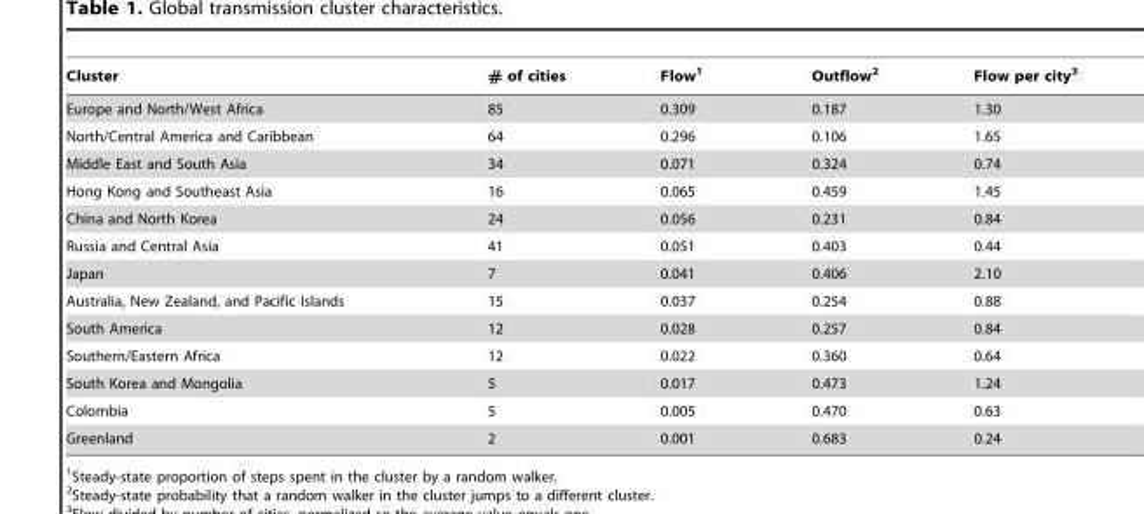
<table><thead><tr><td>Cluster</td><td># of cities</td><td>Flow<sup>1</sup></td><td>Outflow<sup>2</sup></td><td>Flow per city<sup>3</sup></td></tr></thead><tbody><tr><td>Europe and North/West Africa</td><td>85</td><td>0.309</td><td>0.187</td><td>1.30</td></tr><tr><td>North/Central America and Caribbean</td><td>64</td><td>0.296</td><td>0.106</td><td>1.65</td></tr><tr><td>Middle East and South Asia</td><td>34</td><td>0.071</td><td>0.324</td><td>0.74</td></tr><tr><td>Hong Kong and Southeast Asia</td><td>16</td><td>0.065</td><td>0.459</td><td>1.45</td></tr><tr><td>China and North Korea</td><td>24</td><td>0.056</td><td>0.231</td><td>0.84</td></tr><tr><td>Russia and Central Asia</td><td>41</td><td>0.051</td><td>0.403</td><td>0.44</td></tr><tr><td>Japan</td><td>7</td><td>0.041</td><td>0.406</td><td>2.10</td></tr><tr><td>Australia, New Zealand, and Pacific Islands</td><td>15</td><td>0.037</td><td>0.254</td><td>0.88</td></tr><tr><td>South America</td><td>12</td><td>0.028</td><td>0.257</td><td>0.84</td></tr><tr><td>Southern/Eastern Africa</td><td>12</td><td>0.022</td><td>0.360</td><td>0.64</td></tr><tr><td>South Korea and Mongolia</td><td>5</td><td>0.017</td><td>0.473</td><td>1.24</td></tr><tr><td>Colombia</td><td>5</td><td>0.005</td><td>0.470</td><td>0.63</td></tr><tr><td>Greenland</td><td>2</td><td>0.001</td><td>0.683</td><td>0.24</td></tr></tbody></table>